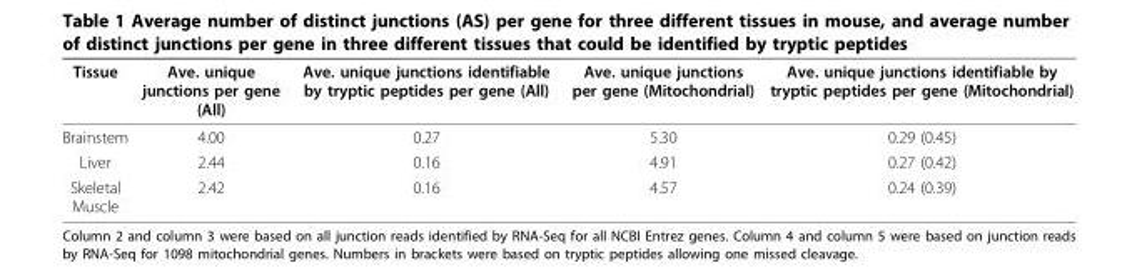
<table><thead><tr><td>Tissue</td><td>Ave. unique junctions per gene (All)</td><td>Ave. unique junctions identifiable by tryptic peptides per gene (All)</td><td>Ave. unique junctions per gene (Mitochondrial)</td><td>Ave. unique junctions identifiable by tryptic peptides per gene (Mitochondrial)</td></tr></thead><tbody><tr><td>Brainstem</td><td>4.00</td><td>0.27</td><td>5.30</td><td>0.29 (0.45)</td></tr><tr><td>Liver</td><td>2.44</td><td>0.16</td><td>4.91</td><td>0.27 (0.42)</td></tr><tr><td>Skeletal Muscle</td><td>2.42</td><td>0.16</td><td>4.57</td><td>0.24 (0.39)</td></tr></tbody></table>